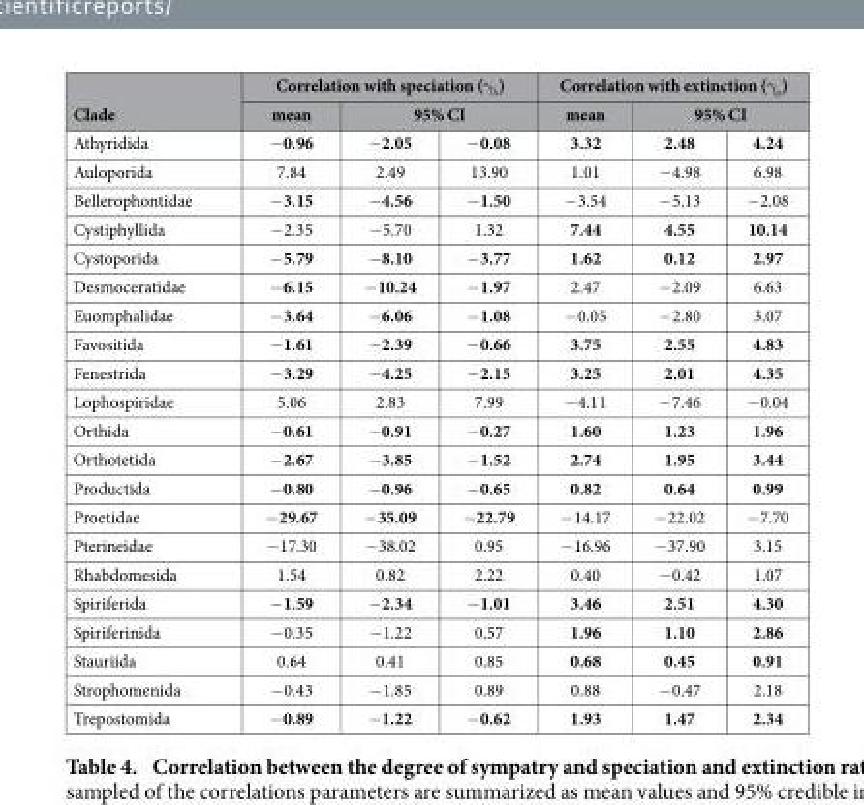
<table><thead><tr><td rowspan="3">Clade Athyridida</td><td colspan="3">Correlation with speciation (γ <sub>λ</sub>)</td><td colspan="3">Correlation with extinction (γ <sub>μ</sub>)</td></tr><tr><td rowspan="2">mean − 0.96</td><td colspan="2">95% CI</td><td rowspan="2">mean 3.32</td><td colspan="2">95% CI</td></tr><tr><td>− 2.05</td><td>− 0.08</td><td>2.48</td><td>4.24</td></tr></thead><tbody><tr><td>Auloporida</td><td>7.84</td><td>2.49</td><td>13.90</td><td>1.01</td><td>− 4.98</td><td>6.98</td></tr><tr><td>Bellerophontidae</td><td>− 3.15</td><td>− 4.56</td><td>− 1.50</td><td>− 3.54</td><td>− 5.13</td><td>− 2.08</td></tr><tr><td>Cystiphyllida</td><td>− 2.35</td><td>− 5.70</td><td>1.32</td><td>7.44</td><td>4.55</td><td>10.14</td></tr><tr><td>Cystoporida</td><td>− 5.79</td><td>− 8.10</td><td>− 3.77</td><td>1.62</td><td>0.12</td><td>2.97</td></tr><tr><td>Desmoceratidae</td><td>− 6.15</td><td>− 10.24</td><td>− 1.97</td><td>2.47</td><td>− 2.09</td><td>6.63</td></tr><tr><td>Euomphalidae</td><td>− 3.64</td><td>− 6.06</td><td>− 1.08</td><td>− 0.05</td><td>− 2.80</td><td>3.07</td></tr><tr><td>Favositida</td><td>− 1.61</td><td>− 2.39</td><td>− 0.66</td><td>3.75</td><td>2.55</td><td>4.83</td></tr><tr><td>Fenestrida</td><td>− 3.29</td><td>− 4.25</td><td>− 2.15</td><td>3.25</td><td>2.01</td><td>4.35</td></tr><tr><td>Lophospiridae</td><td>5.06</td><td>2.83</td><td>7.99</td><td>− 4.11</td><td>− 7.46</td><td>− 0.04</td></tr><tr><td>Orthida</td><td>− 0.61</td><td>− 0.91</td><td>− 0.27</td><td>1.60</td><td>1.23</td><td>1.96</td></tr><tr><td>Orthotetida</td><td>− 2.67</td><td>− 3.85</td><td>− 1.52</td><td>2.74</td><td>1.95</td><td>3.44</td></tr><tr><td>Productida</td><td>− 0.80</td><td>− 0.96</td><td>− 0.65</td><td>0.82</td><td>0.64</td><td>0.99</td></tr><tr><td>Proetidae</td><td>− 29.67</td><td>− 35.09</td><td>− 22.79</td><td>− 14.17</td><td>− 22.02</td><td>− 7.70</td></tr><tr><td>Pterineidae</td><td>− 17.30</td><td>− 38.02</td><td>0.95</td><td>− 16.96</td><td>− 37.90</td><td>3.15</td></tr><tr><td>Rhabdomesida</td><td>1.54</td><td>0.82</td><td>2.22</td><td>0.40</td><td>− 0.42</td><td>1.07</td></tr><tr><td>Spiriferida</td><td>− 1.59</td><td>− 2.34</td><td>− 1.01</td><td>3.46</td><td>2.51</td><td>4.30</td></tr><tr><td>Spiriferinida</td><td>− 0.35</td><td>− 1.22</td><td>0.57</td><td>1.96</td><td>1.10</td><td>2.86</td></tr><tr><td>Stauriida</td><td>0.64</td><td>0.41</td><td>0.85</td><td>0.68</td><td>0.45</td><td>0.91</td></tr><tr><td>Strophomenida</td><td>− 0.43</td><td>− 1.85</td><td>0.89</td><td>0.88</td><td>− 0.47</td><td>2.18</td></tr><tr><td>Trepostomida</td><td>− 0.89</td><td>− 1.22</td><td>− 0.62</td><td>1.93</td><td>1.47</td><td>2.34</td></tr></tbody></table>